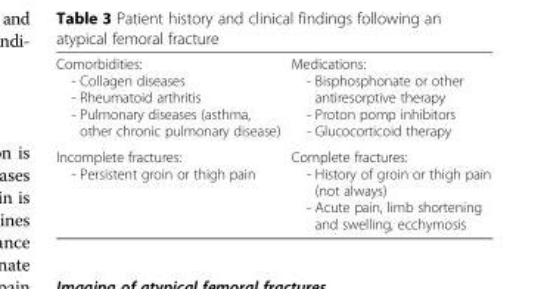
<table><tbody><tr><td>Comorbidities: - Collagen diseases - Rheumatoid arthritis - Pulmonary diseases (asthma, other chronic pulmonary disease)</td><td>Medications: - Bisphosphonate or other antiresorptive therapy - Proton pomp inhibitors - Glucocorticoid therapy</td></tr><tr><td>Incomplete fractures: - Persistent groin or thigh pain</td><td>Complete fractures: - History of groin or thigh pain (not always) - Acute pain, limb shortening and swelling, ecchymosis</td></tr></tbody></table>